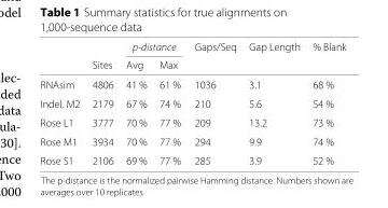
<table><thead><tr><td rowspan="2"></td><td rowspan="2">Sites</td><td colspan="2">p-distance</td><td rowspan="2">Gaps/Seq</td><td rowspan="2">Gap Length</td><td rowspan="2">% Blank</td></tr><tr><td>Avg</td><td>Max</td></tr></thead><tbody><tr><td>RNAsim</td><td>4806</td><td>41 %</td><td>61 %</td><td>1036</td><td>3.1</td><td>68 %</td></tr><tr><td>Indel. M2</td><td>2179</td><td>67 %</td><td>74 %</td><td>210</td><td>5.6</td><td>54 %</td></tr><tr><td>Rose L1</td><td>3777</td><td>70 %</td><td>77 %</td><td>209</td><td>13.2</td><td>73 %</td></tr><tr><td>Rose M1</td><td>3934</td><td>70 %</td><td>77 %</td><td>294</td><td>9.9</td><td>74 %</td></tr><tr><td>Rose S1</td><td>2106</td><td>69 %</td><td>77 %</td><td>285</td><td>3.9</td><td>52 %</td></tr></tbody></table>